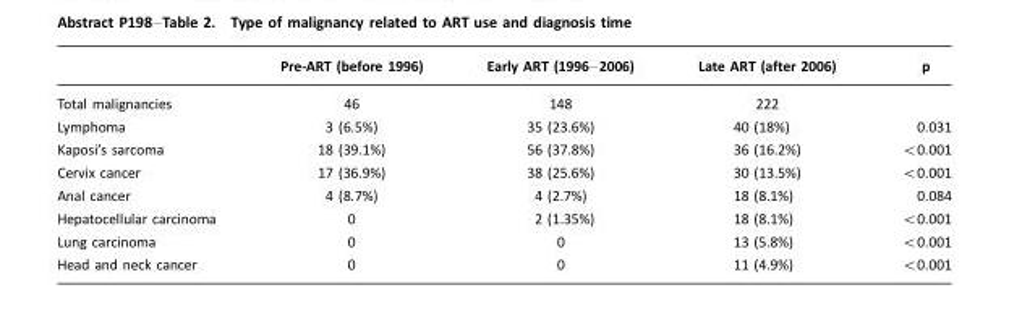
<table><thead><tr><td></td><td>Pre-ART (before 1996)</td><td>Early ART (1996–2006)</td><td>Late ART (after 2006)</td><td>p</td></tr></thead><tbody><tr><td>Total malignancies</td><td>46</td><td>148</td><td>222</td><td></td></tr><tr><td>Lymphoma</td><td>3 (6.5%)</td><td>35 (23.6%)</td><td>40 (18%)</td><td>0.031</td></tr><tr><td>Kaposi’s sarcoma</td><td>18 (39.1%)</td><td>56 (37.8%)</td><td>36 (16.2%)</td><td>&lt;0.001</td></tr><tr><td>Cervix cancer</td><td>17 (36.9%)</td><td>38 (25.6%)</td><td>30 (13.5%)</td><td>&lt;0.001</td></tr><tr><td>Anal cancer</td><td>4 (8.7%)</td><td>4 (2.7%)</td><td>18 (8.1%)</td><td>0.084</td></tr><tr><td>Hepatocellular carcinoma</td><td>0</td><td>2 (1.35%)</td><td>18 (8.1%)</td><td>&lt;0.001</td></tr><tr><td>Lung carcinoma</td><td>0</td><td>0</td><td>13 (5.8%)</td><td>&lt;0.001</td></tr><tr><td>Head and neck cancer</td><td>0</td><td>0</td><td>11 (4.9%)</td><td>&lt;0.001</td></tr></tbody></table>